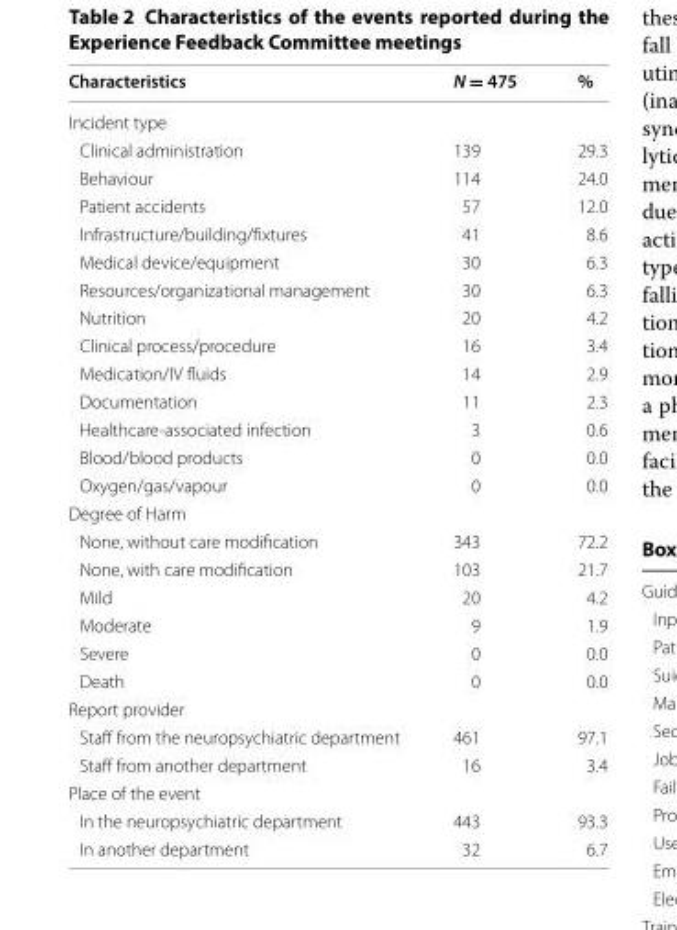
<table><thead><tr><td>Characteristics</td><td>N = 475</td><td>%</td></tr></thead><tbody><tr><td colspan="3">Incident type</td></tr><tr><td>Clinical administration</td><td>139</td><td>29.3</td></tr><tr><td>Behaviour</td><td>114</td><td>24.0</td></tr><tr><td>Patient accidents</td><td>57</td><td>12.0</td></tr><tr><td>Infrastructure/building/fixtures</td><td>41</td><td>8.6</td></tr><tr><td>Medical device/equipment</td><td>30</td><td>6.3</td></tr><tr><td>Resources/organizational management</td><td>30</td><td>6.3</td></tr><tr><td>Nutrition</td><td>20</td><td>4.2</td></tr><tr><td>Clinical process/procedure</td><td>16</td><td>3.4</td></tr><tr><td>Medication/IV fluids</td><td>14</td><td>2.9</td></tr><tr><td>Documentation</td><td>11</td><td>2.3</td></tr><tr><td>Healthcare-associated infection</td><td>3</td><td>0.6</td></tr><tr><td>Blood/blood products</td><td>0</td><td>0.0</td></tr><tr><td>Oxygen/gas/vapour</td><td>0</td><td>0.0</td></tr><tr><td colspan="3">Degree of Harm</td></tr><tr><td>None, without care modification</td><td>343</td><td>72.2</td></tr><tr><td>None, with care modification</td><td>103</td><td>21.7</td></tr><tr><td>Mild</td><td>20</td><td>4.2</td></tr><tr><td>Moderate</td><td>9</td><td>1.9</td></tr><tr><td>Severe</td><td>0</td><td>0.0</td></tr><tr><td>Death</td><td>0</td><td>0.0</td></tr><tr><td colspan="3">Report provider</td></tr><tr><td>Staff from the neuropsychiatric department</td><td>461</td><td>97.1</td></tr><tr><td>Staff from another department</td><td>16</td><td>3.4</td></tr><tr><td colspan="3">Place of the event</td></tr><tr><td>In the neuropsychiatric department</td><td>443</td><td>93.3</td></tr><tr><td>In another department</td><td>32</td><td>6.7</td></tr></tbody></table>